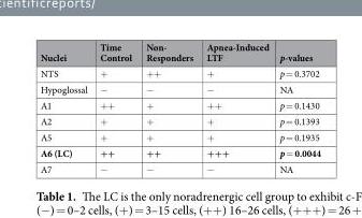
<table><thead><tr><td>Nuclei</td><td>Time Control</td><td>Non- Responders</td><td>Apnea-Induced LTF</td><td>p-values</td></tr></thead><tbody><tr><td>NTS</td><td>+</td><td>++</td><td>+</td><td>p = 0.3702</td></tr><tr><td>Hypoglossal</td><td>−</td><td>−</td><td>−</td><td>NA</td></tr><tr><td>A1</td><td>++</td><td>+</td><td>++</td><td>p = 0.1430</td></tr><tr><td>A2</td><td>+</td><td>+</td><td>+</td><td>p = 0.1393</td></tr><tr><td>A5</td><td>+</td><td>+</td><td>+</td><td>p = 0.1935</td></tr><tr><td>A6 (LC)</td><td>++</td><td>++</td><td>+++</td><td>p = 0.0044</td></tr><tr><td>A7</td><td>−</td><td>−</td><td>−</td><td>NA</td></tr></tbody></table>